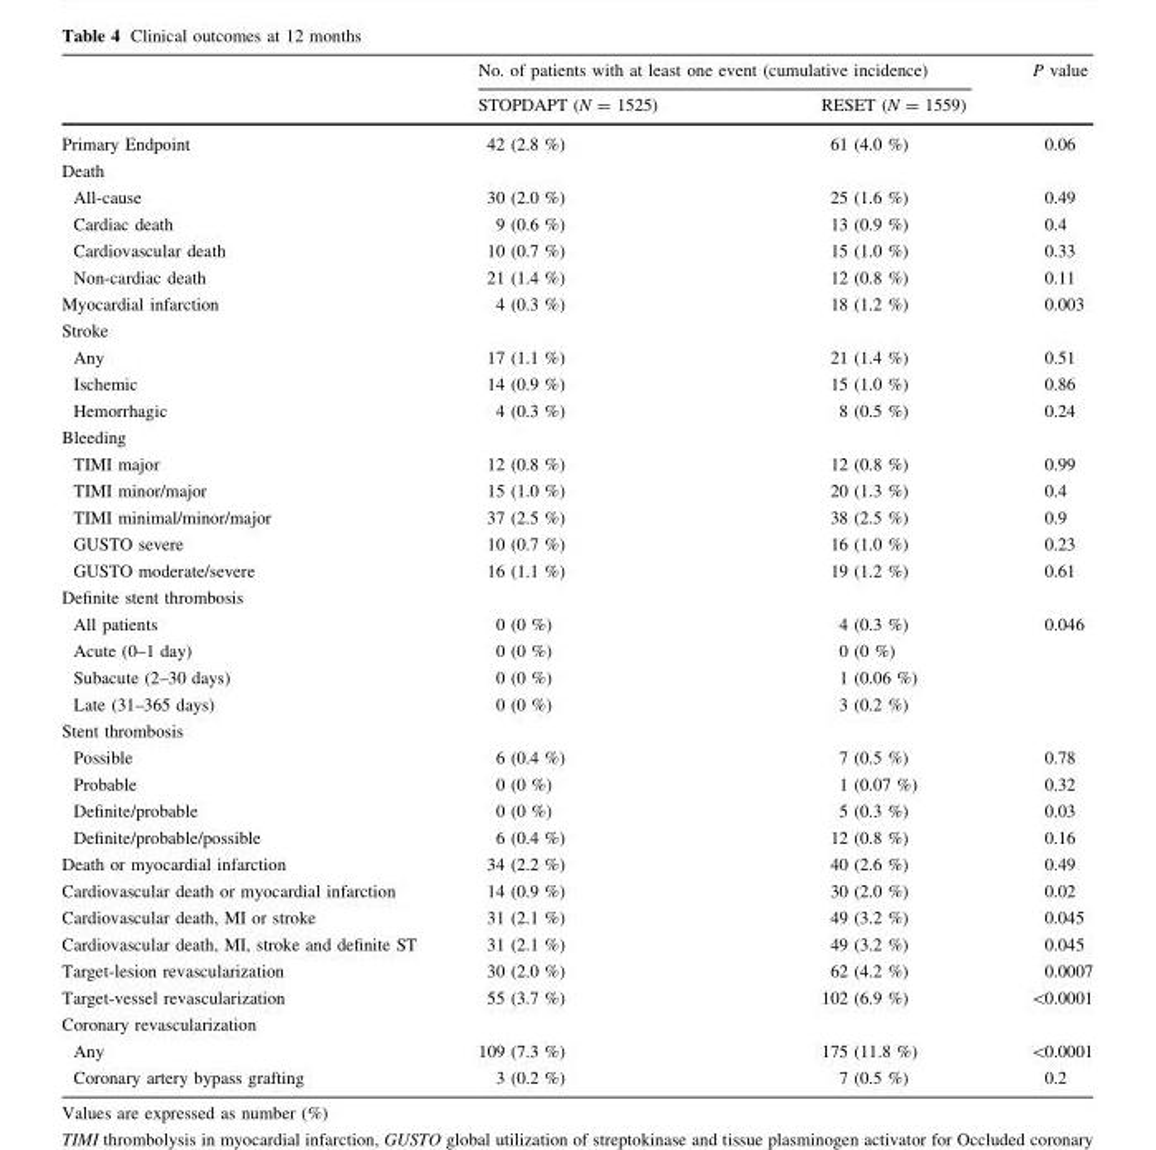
<table><thead><tr><td rowspan="2"></td><td colspan="2">No. of patients with at least one event (cumulative incidence)</td><td rowspan="2">P value</td></tr><tr><td>STOPDAPT (N = 1525)</td><td>RESET (N = 1559)</td></tr></thead><tbody><tr><td>Primary Endpoint</td><td>42 (2.8 %)</td><td>61 (4.0 %)</td><td>0.06</td></tr><tr><td colspan="4">Death</td></tr><tr><td>All-cause</td><td>30 (2.0 %)</td><td>25 (1.6 %)</td><td>0.49</td></tr><tr><td>Cardiac death</td><td>9 (0.6 %)</td><td>13 (0.9 %)</td><td>0.4</td></tr><tr><td>Cardiovascular death</td><td>10 (0.7 %)</td><td>15 (1.0 %)</td><td>0.33</td></tr><tr><td>Non-cardiac death</td><td>21 (1.4 %)</td><td>12 (0.8 %)</td><td>0.11</td></tr><tr><td>Myocardial infarction</td><td>4 (0.3 %)</td><td>18 (1.2 %)</td><td>0.003</td></tr><tr><td colspan="4">Stroke</td></tr><tr><td>Any</td><td>17 (1.1 %)</td><td>21 (1.4 %)</td><td>0.51</td></tr><tr><td>Ischemic</td><td>14 (0.9 %)</td><td>15 (1.0 %)</td><td>0.86</td></tr><tr><td>Hemorrhagic</td><td>4 (0.3 %)</td><td>8 (0.5 %)</td><td>0.24</td></tr><tr><td colspan="4">Bleeding</td></tr><tr><td>TIMI major</td><td>12 (0.8 %)</td><td>12 (0.8 %)</td><td>0.99</td></tr><tr><td>TIMI minor/major</td><td>15 (1.0 %)</td><td>20 (1.3 %)</td><td>0.4</td></tr><tr><td>TIMI minimal/minor/major</td><td>37 (2.5 %)</td><td>38 (2.5 %)</td><td>0.9</td></tr><tr><td>GUSTO severe</td><td>10 (0.7 %)</td><td>16 (1.0 %)</td><td>0.23</td></tr><tr><td>GUSTO moderate/severe</td><td>16 (1.1 %)</td><td>19 (1.2 %)</td><td>0.61</td></tr><tr><td colspan="4">Definite stent thrombosis</td></tr><tr><td>All patients</td><td>0 (0 %)</td><td>4 (0.3 %)</td><td>0.046</td></tr><tr><td>Acute (0–1 day)</td><td>0 (0 %)</td><td>0 (0 %)</td><td></td></tr><tr><td>Subacute (2–30 days)</td><td>0 (0 %)</td><td>1 (0.06 %)</td><td></td></tr><tr><td>Late (31–365 days)</td><td>0 (0 %)</td><td>3 (0.2 %)</td><td></td></tr><tr><td colspan="4">Stent thrombosis</td></tr><tr><td>Possible</td><td>6 (0.4 %)</td><td>7 (0.5 %)</td><td>0.78</td></tr><tr><td>Probable</td><td>0 (0 %)</td><td>1 (0.07 %)</td><td>0.32</td></tr><tr><td>Definite/probable</td><td>0 (0 %)</td><td>5 (0.3 %)</td><td>0.03</td></tr><tr><td>Definite/probable/possible</td><td>6 (0.4 %)</td><td>12 (0.8 %)</td><td>0.16</td></tr><tr><td>Death or myocardial infarction</td><td>34 (2.2 %)</td><td>40 (2.6 %)</td><td>0.49</td></tr><tr><td>Cardiovascular death or myocardial infarction</td><td>14 (0.9 %)</td><td>30 (2.0 %)</td><td>0.02</td></tr><tr><td>Cardiovascular death, MI or stroke</td><td>31 (2.1 %)</td><td>49 (3.2 %)</td><td>0.045</td></tr><tr><td>Cardiovascular death, MI, stroke and definite ST</td><td>31 (2.1 %)</td><td>49 (3.2 %)</td><td>0.045</td></tr><tr><td>Target-lesion revascularization</td><td>30 (2.0 %)</td><td>62 (4.2 %)</td><td>0.0007</td></tr><tr><td>Target-vessel revascularization</td><td>55 (3.7 %)</td><td>102 (6.9 %)</td><td>&lt;0.0001</td></tr><tr><td colspan="4">Coronary revascularization</td></tr><tr><td>Any</td><td>109 (7.3 %)</td><td>175 (11.8 %)</td><td>&lt;0.0001</td></tr><tr><td>Coronary artery bypass grafting</td><td>3 (0.2 %)</td><td>7 (0.5 %)</td><td>0.2</td></tr></tbody></table>